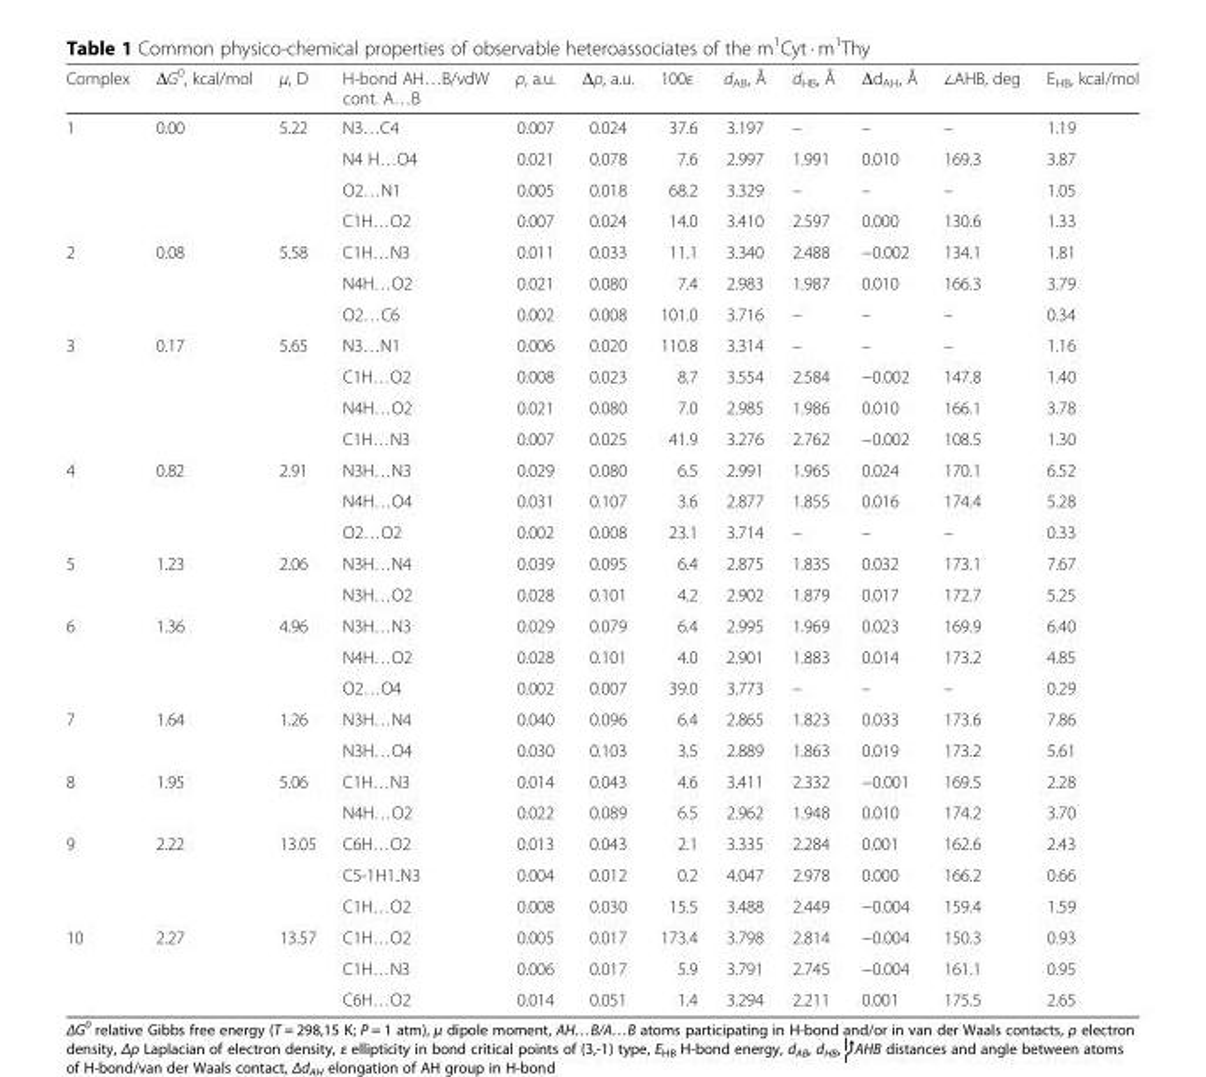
<table><thead><tr><td>Complex</td><td>ΔG<sup>0</sup>, kcal/mol</td><td>μ, D</td><td>H-bond AH…B/vdW cont. A…B</td><td>ρ, a.u.</td><td>Δρ, a.u.</td><td>100ε</td><td>d<sub>AB</sub>, Å</td><td>d<sub>HB</sub>, Å</td><td>Δd<sub>AH</sub>, Å</td><td>∠AHB, deg</td><td>E<sub>HB</sub>, kcal/mol</td></tr></thead><tbody><tr><td rowspan="4">1</td><td rowspan="4">0.00</td><td rowspan="4">5.22</td><td>N3…С4</td><td>0.007</td><td>0.024</td><td>37.6</td><td>3.197</td><td>–</td><td>–</td><td>–</td><td>1.19</td></tr><tr><td>N4 H…O4</td><td>0.021</td><td>0.078</td><td>7.6</td><td>2.997</td><td>1.991</td><td>0.010</td><td>169.3</td><td>3.87</td></tr><tr><td>O2…N1</td><td>0.005</td><td>0.018</td><td>68.2</td><td>3.329</td><td>–</td><td>–</td><td>–</td><td>1.05</td></tr><tr><td>C1H…O2</td><td>0.007</td><td>0.024</td><td>14.0</td><td>3.410</td><td>2.597</td><td>0.000</td><td>130.6</td><td>1.33</td></tr><tr><td rowspan="3">2</td><td rowspan="3">0.08</td><td rowspan="3">5.58</td><td>C1H…N3</td><td>0.011</td><td>0.033</td><td>11.1</td><td>3.340</td><td>2.488</td><td>−0.002</td><td>134.1</td><td>1.81</td></tr><tr><td>N4H…O2</td><td>0.021</td><td>0.080</td><td>7.4</td><td>2.983</td><td>1.987</td><td>0.010</td><td>166.3</td><td>3.79</td></tr><tr><td>O2…C6</td><td>0.002</td><td>0.008</td><td>101.0</td><td>3.716</td><td>–</td><td>–</td><td>–</td><td>0.34</td></tr><tr><td rowspan="4">3</td><td rowspan="4">0.17</td><td rowspan="4">5.65</td><td>N3…N1</td><td>0.006</td><td>0.020</td><td>110.8</td><td>3.314</td><td>–</td><td>–</td><td>–</td><td>1.16</td></tr><tr><td>C1H…O2</td><td>0.008</td><td>0.023</td><td>8.7</td><td>3.554</td><td>2.584</td><td>−0.002</td><td>147.8</td><td>1.40</td></tr><tr><td>N4H…O2</td><td>0.021</td><td>0.080</td><td>7.0</td><td>2.985</td><td>1.986</td><td>0.010</td><td>166.1</td><td>3.78</td></tr><tr><td>C1H…N3</td><td>0.007</td><td>0.025</td><td>41.9</td><td>3.276</td><td>2.762</td><td>−0.002</td><td>108.5</td><td>1.30</td></tr><tr><td rowspan="3">4</td><td rowspan="3">0.82</td><td rowspan="3">2.91</td><td>N3H…N3</td><td>0.029</td><td>0.080</td><td>6.5</td><td>2.991</td><td>1.965</td><td>0.024</td><td>170.1</td><td>6.52</td></tr><tr><td>N4H…O4</td><td>0.031</td><td>0.107</td><td>3.6</td><td>2.877</td><td>1.855</td><td>0.016</td><td>174.4</td><td>5.28</td></tr><tr><td>O2…O2</td><td>0.002</td><td>0.008</td><td>23.1</td><td>3.714</td><td>–</td><td>–</td><td>–</td><td>0.33</td></tr><tr><td rowspan="2">5</td><td rowspan="2">1.23</td><td rowspan="2">2.06</td><td>N3H…N4</td><td>0.039</td><td>0.095</td><td>6.4</td><td>2.875</td><td>1.835</td><td>0.032</td><td>173.1</td><td>7.67</td></tr><tr><td>N3H…O2</td><td>0.028</td><td>0.101</td><td>4.2</td><td>2.902</td><td>1.879</td><td>0.017</td><td>172.7</td><td>5.25</td></tr><tr><td rowspan="3">6</td><td rowspan="3">1.36</td><td rowspan="3">4.96</td><td>N3H…N3</td><td>0.029</td><td>0.079</td><td>6.4</td><td>2.995</td><td>1.969</td><td>0.023</td><td>169.9</td><td>6.40</td></tr><tr><td>N4H…O2</td><td>0.028</td><td>0.101</td><td>4.0</td><td>2.901</td><td>1.883</td><td>0.014</td><td>173.2</td><td>4.85</td></tr><tr><td>O2…O4</td><td>0.002</td><td>0.007</td><td>39.0</td><td>3.773</td><td>–</td><td>–</td><td>–</td><td>0.29</td></tr><tr><td rowspan="2">7</td><td rowspan="2">1.64</td><td rowspan="2">1.26</td><td>N3H…N4</td><td>0.040</td><td>0.096</td><td>6.4</td><td>2.865</td><td>1.823</td><td>0.033</td><td>173.6</td><td>7.86</td></tr><tr><td>N3H…O4</td><td>0.030</td><td>0.103</td><td>3.5</td><td>2.889</td><td>1.863</td><td>0.019</td><td>173.2</td><td>5.61</td></tr><tr><td rowspan="2">8</td><td rowspan="2">1.95</td><td rowspan="2">5.06</td><td>C1H…N3</td><td>0.014</td><td>0.043</td><td>4.6</td><td>3.411</td><td>2.332</td><td>−0.001</td><td>169.5</td><td>2.28</td></tr><tr><td>N4H…O2</td><td>0.022</td><td>0.089</td><td>6.5</td><td>2.962</td><td>1.948</td><td>0.010</td><td>174.2</td><td>3.70</td></tr><tr><td rowspan="3">9</td><td rowspan="3">2.22</td><td rowspan="3">13.05</td><td>C6H…O2</td><td>0.013</td><td>0.043</td><td>2.1</td><td>3.335</td><td>2.284</td><td>0.001</td><td>162.6</td><td>2.43</td></tr><tr><td>C5-1H1..N3</td><td>0.004</td><td>0.012</td><td>0.2</td><td>4.047</td><td>2.978</td><td>0.000</td><td>166.2</td><td>0.66</td></tr><tr><td>C1H…O2</td><td>0.008</td><td>0.030</td><td>15.5</td><td>3.488</td><td>2.449</td><td>−0.004</td><td>159.4</td><td>1.59</td></tr><tr><td rowspan="3">10</td><td rowspan="3">2.27</td><td rowspan="3">13.57</td><td>C1H…O2</td><td>0.005</td><td>0.017</td><td>173.4</td><td>3.798</td><td>2.814</td><td>−0.004</td><td>150.3</td><td>0.93</td></tr><tr><td>C1H…N3</td><td>0.006</td><td>0.017</td><td>5.9</td><td>3.791</td><td>2.745</td><td>−0.004</td><td>161.1</td><td>0.95</td></tr><tr><td>C6H…O2</td><td>0.014</td><td>0.051</td><td>1.4</td><td>3.294</td><td>2.211</td><td>0.001</td><td>175.5</td><td>2.65</td></tr></tbody></table>